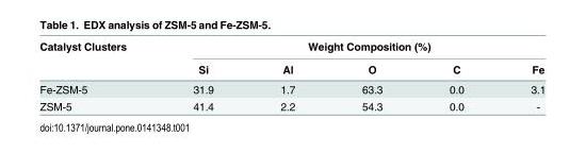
<table><thead><tr><td rowspan="2">Catalyst Clusters</td><td colspan="5">Weight Composition (%)</td></tr><tr><td>Si</td><td>Al</td><td>O</td><td>C</td><td>Fe</td></tr></thead><tbody><tr><td>Fe-ZSM-5</td><td>31.9</td><td>1.7</td><td>63.3</td><td>0.0</td><td>3.1</td></tr><tr><td>ZSM-5</td><td>41.4</td><td>2.2</td><td>54.3</td><td>0.0</td><td>-</td></tr></tbody></table>